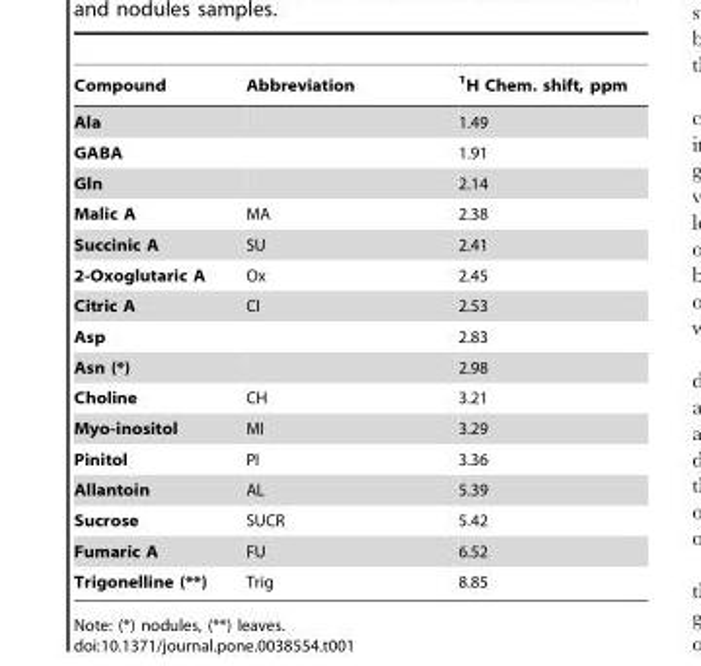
<table><thead><tr><td>Compound</td><td>Abbreviation</td><td><sup>1</sup>H Chem. shift, ppm</td></tr></thead><tbody><tr><td>Ala</td><td></td><td>1.49</td></tr><tr><td>GABA</td><td></td><td>1.91</td></tr><tr><td>Gln</td><td></td><td>2.14</td></tr><tr><td>Malic A</td><td>MA</td><td>2.38</td></tr><tr><td>Succinic A</td><td>SU</td><td>2.41</td></tr><tr><td>2-Oxoglutaric A</td><td>Ox</td><td>2.45</td></tr><tr><td>Citric A</td><td>CI</td><td>2.53</td></tr><tr><td>Asp</td><td></td><td>2.83</td></tr><tr><td>Asn (*)</td><td></td><td>2.98</td></tr><tr><td>Choline</td><td>CH</td><td>3.21</td></tr><tr><td>Myo-inositol</td><td>MI</td><td>3.29</td></tr><tr><td>Pinitol</td><td>PI</td><td>3.36</td></tr><tr><td>Allantoin</td><td>AL</td><td>5.39</td></tr><tr><td>Sucrose</td><td>SUCR</td><td>5.42</td></tr><tr><td>Fumaric A</td><td>FU</td><td>6.52</td></tr><tr><td>Trigonelline (**)</td><td>Trig</td><td>8.85</td></tr></tbody></table>